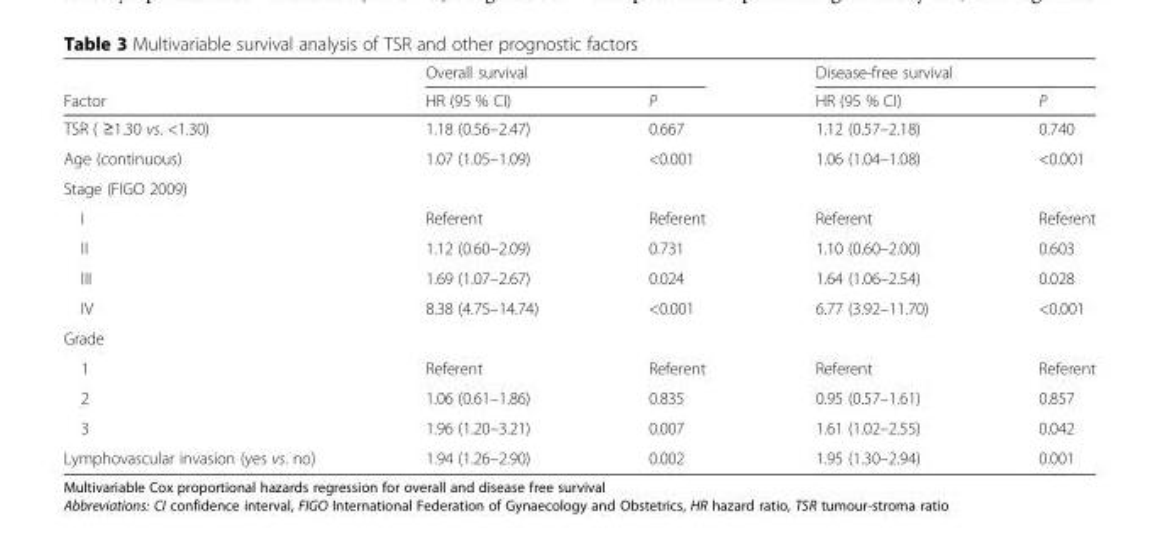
<table><thead><tr><td rowspan="2">Factor</td><td colspan="2">Overall survival</td><td colspan="2">Disease-free survival</td></tr><tr><td>HR (95 % CI)</td><td>P</td><td>HR (95 % CI)</td><td>P</td></tr></thead><tbody><tr><td>TSR ( ≥1.30 vs. &lt;1.30)</td><td>1.18 (0.56–2.47)</td><td>0.667</td><td>1.12 (0.57–2.18)</td><td>0.740</td></tr><tr><td>Age (continuous)</td><td>1.07 (1.05–1.09)</td><td>&lt;0.001</td><td>1.06 (1.04–1.08)</td><td>&lt;0.001</td></tr><tr><td colspan="5">Stage (FIGO 2009)</td></tr><tr><td>I</td><td>Referent</td><td>Referent</td><td>Referent</td><td>Referent</td></tr><tr><td>II</td><td>1.12 (0.60–2.09)</td><td>0.731</td><td>1.10 (0.60–2.00)</td><td>0.603</td></tr><tr><td>III</td><td>1.69 (1.07–2.67)</td><td>0.024</td><td>1.64 (1.06–2.54)</td><td>0.028</td></tr><tr><td>IV</td><td>8.38 (4.75–14.74)</td><td>&lt;0.001</td><td>6.77 (3.92–11.70)</td><td>&lt;0.001</td></tr><tr><td colspan="5">Grade</td></tr><tr><td>1</td><td>Referent</td><td>Referent</td><td>Referent</td><td>Referent</td></tr><tr><td>2</td><td>1.06 (0.61–1.86)</td><td>0.835</td><td>0.95 (0.57–1.61)</td><td>0.857</td></tr><tr><td>3</td><td>1.96 (1.20–3.21)</td><td>0.007</td><td>1.61 (1.02–2.55)</td><td>0.042</td></tr><tr><td>Lymphovascular invasion (yes vs. no)</td><td>1.94 (1.26–2.90)</td><td>0.002</td><td>1.95 (1.30–2.94)</td><td>0.001</td></tr></tbody></table>